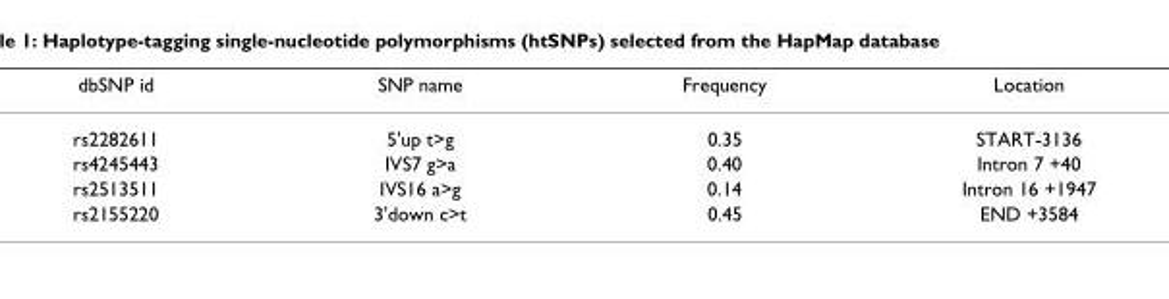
<table><thead><tr><td>dbSNP id</td><td>SNP name</td><td>Frequency</td><td>Location</td></tr></thead><tbody><tr><td>rs2282611</td><td>5&#x27;up t&gt;g</td><td>0.35</td><td>START-3136</td></tr><tr><td>rs4245443</td><td>IVS7 g&gt;a</td><td>0.40</td><td>Intron 7 +40</td></tr><tr><td>rs2513511</td><td>IVS16 a&gt;g</td><td>0.14</td><td>Intron 16 +1947</td></tr><tr><td>rs2155220</td><td>3&#x27;down c&gt;t</td><td>0.45</td><td>END +3584</td></tr></tbody></table>